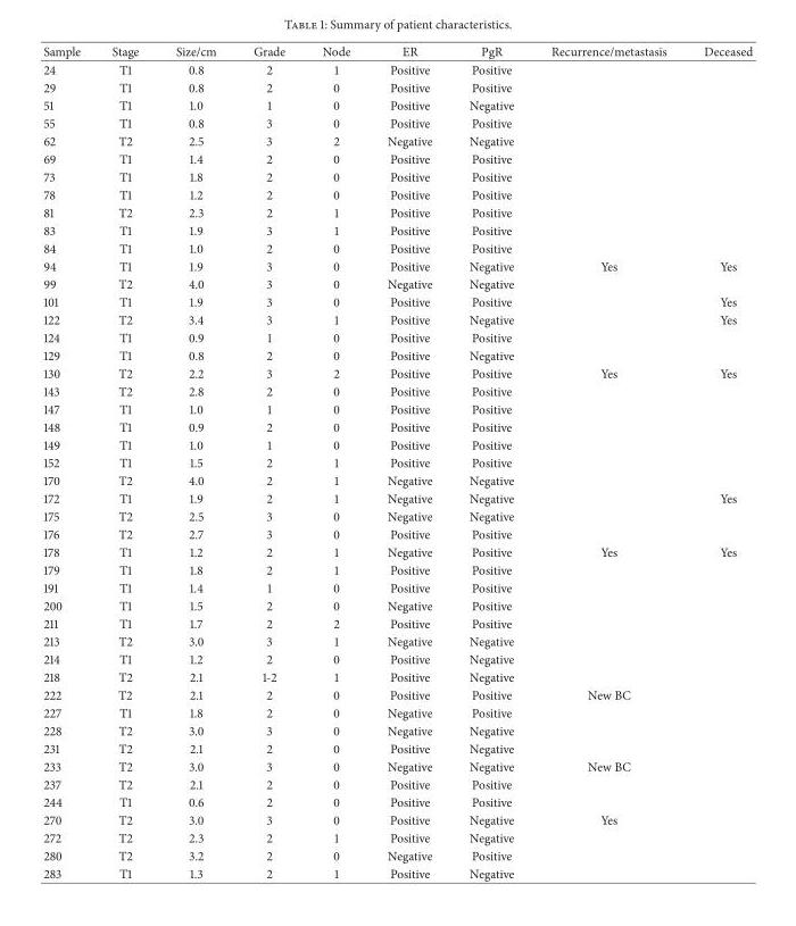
<table><thead><tr><td>Sample</td><td>Stage</td><td>Size/cm</td><td>Grade</td><td>Node</td><td>ER</td><td>PgR</td><td>Recurrence/metastasis</td><td>Deceased</td></tr></thead><tbody><tr><td>24</td><td>T1</td><td>0.8</td><td>2</td><td>1</td><td>Positive</td><td>Positive</td><td></td><td></td></tr><tr><td>29</td><td>T1</td><td>0.8</td><td>2</td><td>0</td><td>Positive</td><td>Positive</td><td></td><td></td></tr><tr><td>51</td><td>T1</td><td>1.0</td><td>1</td><td>0</td><td>Positive</td><td>Negative</td><td></td><td></td></tr><tr><td>55</td><td>T1</td><td>0.8</td><td>3</td><td>0</td><td>Positive</td><td>Positive</td><td></td><td></td></tr><tr><td>62</td><td>T2</td><td>2.5</td><td>3</td><td>2</td><td>Negative</td><td>Negative</td><td></td><td></td></tr><tr><td>69</td><td>T1</td><td>1.4</td><td>2</td><td>0</td><td>Positive</td><td>Positive</td><td></td><td></td></tr><tr><td>73</td><td>T1</td><td>1.8</td><td>2</td><td>0</td><td>Positive</td><td>Positive</td><td></td><td></td></tr><tr><td>78</td><td>T1</td><td>1.2</td><td>2</td><td>0</td><td>Positive</td><td>Positive</td><td></td><td></td></tr><tr><td>81</td><td>T2</td><td>2.3</td><td>2</td><td>1</td><td>Positive</td><td>Positive</td><td></td><td></td></tr><tr><td>83</td><td>T1</td><td>1.9</td><td>3</td><td>1</td><td>Positive</td><td>Positive</td><td></td><td></td></tr><tr><td>84</td><td>T1</td><td>1.0</td><td>2</td><td>0</td><td>Positive</td><td>Positive</td><td></td><td></td></tr><tr><td>94</td><td>T1</td><td>1.9</td><td>3</td><td>0</td><td>Positive</td><td>Negative</td><td>Yes</td><td>Yes</td></tr><tr><td>99</td><td>T2</td><td>4.0</td><td>3</td><td>0</td><td>Negative</td><td>Negative</td><td></td><td></td></tr><tr><td>101</td><td>T1</td><td>1.9</td><td>3</td><td>0</td><td>Positive</td><td>Positive</td><td></td><td>Yes</td></tr><tr><td>122</td><td>T2</td><td>3.4</td><td>3</td><td>1</td><td>Positive</td><td>Negative</td><td></td><td>Yes</td></tr><tr><td>124</td><td>T1</td><td>0.9</td><td>1</td><td>0</td><td>Positive</td><td>Positive</td><td></td><td></td></tr><tr><td>129</td><td>T1</td><td>0.8</td><td>2</td><td>0</td><td>Positive</td><td>Negative</td><td></td><td></td></tr><tr><td>130</td><td>T2</td><td>2.2</td><td>3</td><td>2</td><td>Positive</td><td>Positive</td><td>Yes</td><td>Yes</td></tr><tr><td>143</td><td>T2</td><td>2.8</td><td>2</td><td>0</td><td>Positive</td><td>Positive</td><td></td><td></td></tr><tr><td>147</td><td>T1</td><td>1.0</td><td>1</td><td>0</td><td>Positive</td><td>Positive</td><td></td><td></td></tr><tr><td>148</td><td>T1</td><td>0.9</td><td>2</td><td>0</td><td>Positive</td><td>Positive</td><td></td><td></td></tr><tr><td>149</td><td>T1</td><td>1.0</td><td>1</td><td>0</td><td>Positive</td><td>Positive</td><td></td><td></td></tr><tr><td>152</td><td>T1</td><td>1.5</td><td>2</td><td>1</td><td>Positive</td><td>Positive</td><td></td><td></td></tr><tr><td>170</td><td>T2</td><td>4.0</td><td>2</td><td>1</td><td>Negative</td><td>Negative</td><td></td><td></td></tr><tr><td>172</td><td>T1</td><td>1.9</td><td>2</td><td>1</td><td>Negative</td><td>Negative</td><td></td><td>Yes</td></tr><tr><td>175</td><td>T2</td><td>2.5</td><td>3</td><td>0</td><td>Negative</td><td>Negative</td><td></td><td></td></tr><tr><td>176</td><td>T2</td><td>2.7</td><td>3</td><td>0</td><td>Positive</td><td>Positive</td><td></td><td></td></tr><tr><td>178</td><td>T1</td><td>1.2</td><td>2</td><td>1</td><td>Negative</td><td>Positive</td><td>Yes</td><td>Yes</td></tr><tr><td>179</td><td>T1</td><td>1.8</td><td>2</td><td>1</td><td>Positive</td><td>Positive</td><td></td><td></td></tr><tr><td>191</td><td>T1</td><td>1.4</td><td>1</td><td>0</td><td>Positive</td><td>Positive</td><td></td><td></td></tr><tr><td>200</td><td>T1</td><td>1.5</td><td>2</td><td>0</td><td>Negative</td><td>Positive</td><td></td><td></td></tr><tr><td>211</td><td>T1</td><td>1.7</td><td>2</td><td>2</td><td>Positive</td><td>Positive</td><td></td><td></td></tr><tr><td>213</td><td>T2</td><td>3.0</td><td>3</td><td>1</td><td>Negative</td><td>Negative</td><td></td><td></td></tr><tr><td>214</td><td>T1</td><td>1.2</td><td>2</td><td>0</td><td>Positive</td><td>Negative</td><td></td><td></td></tr><tr><td>218</td><td>T2</td><td>2.1</td><td>1-2</td><td>1</td><td>Positive</td><td>Negative</td><td></td><td></td></tr><tr><td>222</td><td>T2</td><td>2.1</td><td>2</td><td>0</td><td>Positive</td><td>Positive</td><td>New BC</td><td></td></tr><tr><td>227</td><td>T1</td><td>1.8</td><td>2</td><td>0</td><td>Negative</td><td>Positive</td><td></td><td></td></tr><tr><td>228</td><td>T2</td><td>3.0</td><td>3</td><td>0</td><td>Negative</td><td>Negative</td><td></td><td></td></tr><tr><td>231</td><td>T2</td><td>2.1</td><td>2</td><td>0</td><td>Positive</td><td>Negative</td><td></td><td></td></tr><tr><td>233</td><td>T2</td><td>3.0</td><td>3</td><td>0</td><td>Negative</td><td>Negative</td><td>New BC</td><td></td></tr><tr><td>237</td><td>T2</td><td>2.1</td><td>2</td><td>0</td><td>Positive</td><td>Positive</td><td></td><td></td></tr><tr><td>244</td><td>T1</td><td>0.6</td><td>2</td><td>0</td><td>Positive</td><td>Positive</td><td></td><td></td></tr><tr><td>270</td><td>T2</td><td>3.0</td><td>3</td><td>0</td><td>Positive</td><td>Negative</td><td>Yes</td><td></td></tr><tr><td>272</td><td>T2</td><td>2.3</td><td>2</td><td>1</td><td>Positive</td><td>Negative</td><td></td><td></td></tr><tr><td>280</td><td>T2</td><td>3.2</td><td>2</td><td>0</td><td>Negative</td><td>Positive</td><td></td><td></td></tr><tr><td>283</td><td>T1</td><td>1.3</td><td>2</td><td>1</td><td>Positive</td><td>Negative</td><td></td><td></td></tr></tbody></table>